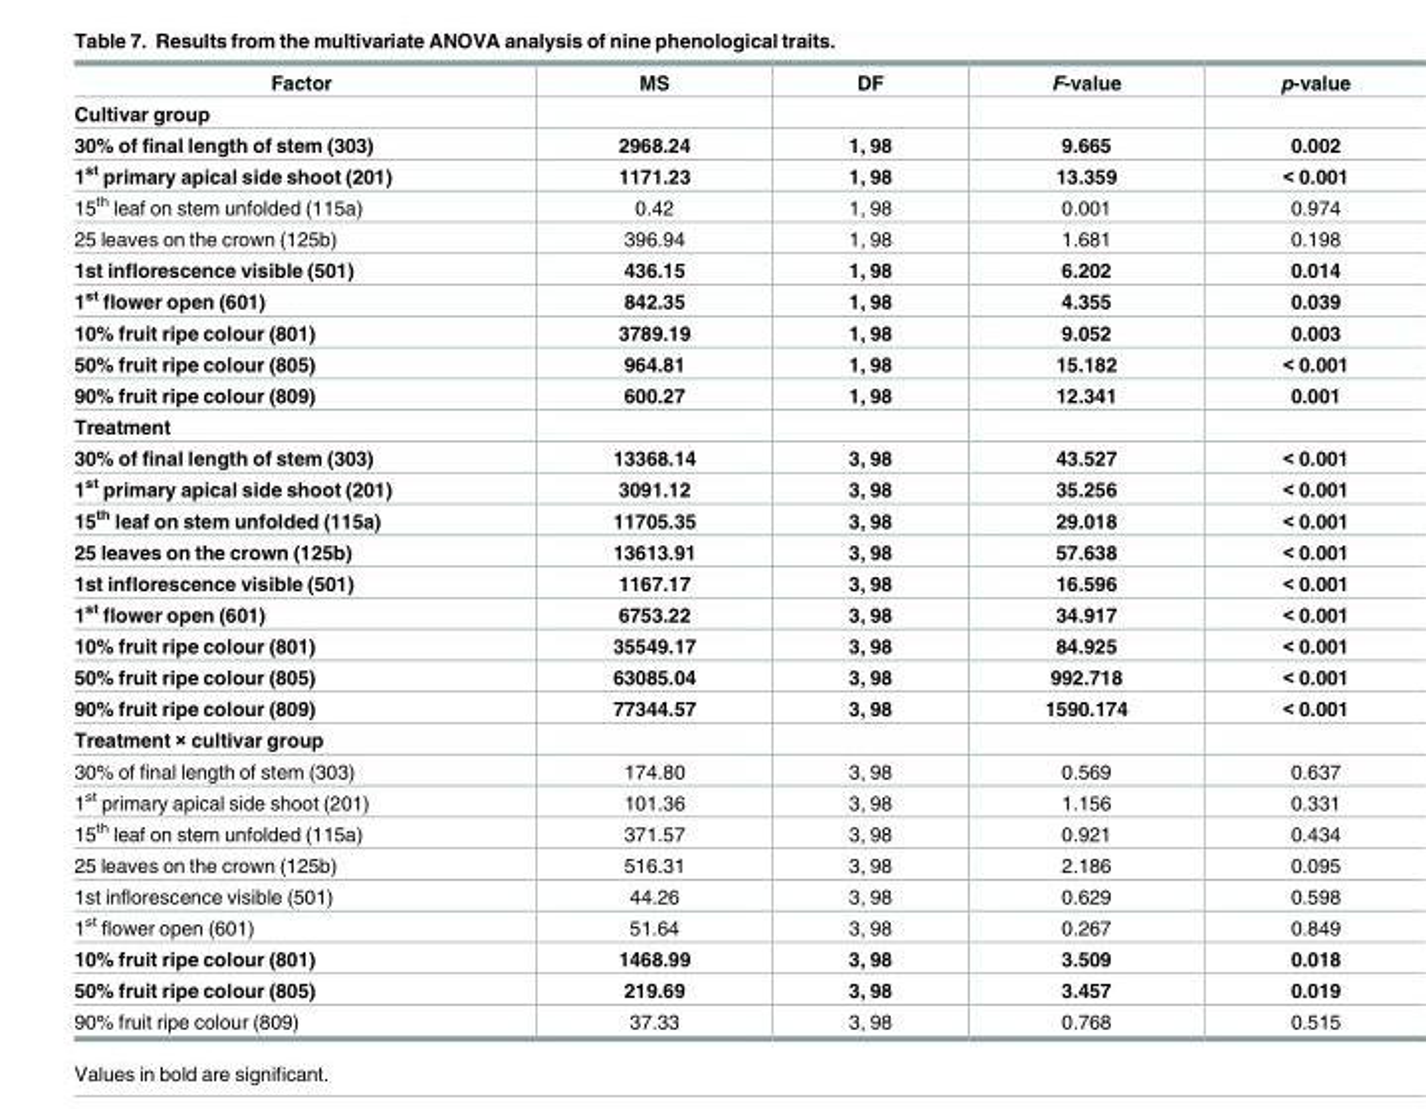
<table><thead><tr><td>Factor</td><td>MS</td><td>DF</td><td>F-value</td><td>p-value</td></tr></thead><tbody><tr><td colspan="5">Cultivar group</td></tr><tr><td>30% of final length of stem (303)</td><td>2968.24</td><td>1, 98</td><td>9.665</td><td>0.002</td></tr><tr><td>1<sup>st</sup> primary apical side shoot (201)</td><td>1171.23</td><td>1, 98</td><td>13.359</td><td>&lt; 0.001</td></tr><tr><td>15<sup>th</sup> leaf on stem unfolded (115a)</td><td>0.42</td><td>1, 98</td><td>0.001</td><td>0.974</td></tr><tr><td>25 leaves on the crown (125b)</td><td>396.94</td><td>1, 98</td><td>1.681</td><td>0.198</td></tr><tr><td>1st inflorescence visible (501)</td><td>436.15</td><td>1, 98</td><td>6.202</td><td>0.014</td></tr><tr><td>1<sup>st</sup> flower open (601)</td><td>842.35</td><td>1, 98</td><td>4.355</td><td>0.039</td></tr><tr><td>10% fruit ripe colour (801)</td><td>3789.19</td><td>1, 98</td><td>9.052</td><td>0.003</td></tr><tr><td>50% fruit ripe colour (805)</td><td>964.81</td><td>1, 98</td><td>15.182</td><td>&lt; 0.001</td></tr><tr><td>90% fruit ripe colour (809)</td><td>600.27</td><td>1, 98</td><td>12.341</td><td>0.001</td></tr><tr><td colspan="5">Treatment</td></tr><tr><td>30% of final length of stem (303)</td><td>13368.14</td><td>3, 98</td><td>43.527</td><td>&lt; 0.001</td></tr><tr><td>1<sup>st</sup> primary apical side shoot (201)</td><td>3091.12</td><td>3, 98</td><td>35.256</td><td>&lt; 0.001</td></tr><tr><td>15<sup>th</sup> leaf on stem unfolded (115a)</td><td>11705.35</td><td>3, 98</td><td>29.018</td><td>&lt; 0.001</td></tr><tr><td>25 leaves on the crown (125b)</td><td>13613.91</td><td>3, 98</td><td>57.638</td><td>&lt; 0.001</td></tr><tr><td>1st inflorescence visible (501)</td><td>1167.17</td><td>3, 98</td><td>16.596</td><td>&lt; 0.001</td></tr><tr><td>1<sup>st</sup> flower open (601)</td><td>6753.22</td><td>3, 98</td><td>34.917</td><td>&lt; 0.001</td></tr><tr><td>10% fruit ripe colour (801)</td><td>35549.17</td><td>3, 98</td><td>84.925</td><td>&lt; 0.001</td></tr><tr><td>50% fruit ripe colour (805)</td><td>63085.04</td><td>3, 98</td><td>992.718</td><td>&lt; 0.001</td></tr><tr><td>90% fruit ripe colour (809)</td><td>77344.57</td><td>3, 98</td><td>1590.174</td><td>&lt; 0.001</td></tr><tr><td colspan="5">Treatment × cultivar group</td></tr><tr><td>30% of final length of stem (303)</td><td>174.80</td><td>3, 98</td><td>0.569</td><td>0.637</td></tr><tr><td>1<sup>st</sup> primary apical side shoot (201)</td><td>101.36</td><td>3, 98</td><td>1.156</td><td>0.331</td></tr><tr><td>15<sup>th</sup> leaf on stem unfolded (115a)</td><td>371.57</td><td>3, 98</td><td>0.921</td><td>0.434</td></tr><tr><td>25 leaves on the crown (125b)</td><td>516.31</td><td>3, 98</td><td>2.186</td><td>0.095</td></tr><tr><td>1st inflorescence visible (501)</td><td>44.26</td><td>3, 98</td><td>0.629</td><td>0.598</td></tr><tr><td>1<sup>st</sup> flower open (601)</td><td>51.64</td><td>3, 98</td><td>0.267</td><td>0.849</td></tr><tr><td>10% fruit ripe colour (801)</td><td>1468.99</td><td>3, 98</td><td>3.509</td><td>0.018</td></tr><tr><td>50% fruit ripe colour (805)</td><td>219.69</td><td>3, 98</td><td>3.457</td><td>0.019</td></tr><tr><td>90% fruit ripe colour (809)</td><td>37.33</td><td>3, 98</td><td>0.768</td><td>0.515</td></tr></tbody></table>